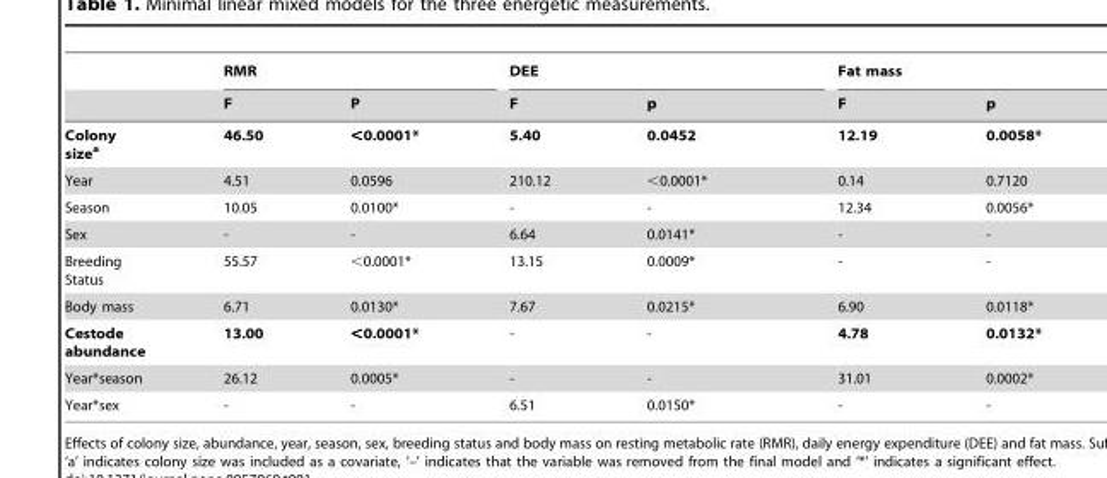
<table><thead><tr><td rowspan="2"></td><td colspan="2">RMR</td><td colspan="2">DEE</td><td colspan="2">Fat mass</td></tr><tr><td>F</td><td>P</td><td>F</td><td>p</td><td>F</td><td>p</td></tr></thead><tbody><tr><td>Colony size<sup>a</sup></td><td>46.50</td><td>&lt;0.0001*</td><td>5.40</td><td>0.0452</td><td>12.19</td><td>0.0058*</td></tr><tr><td>Year</td><td>4.51</td><td>0.0596</td><td>210.12</td><td>&lt;0.0001*</td><td>0.14</td><td>0.7120</td></tr><tr><td>Season</td><td>10.05</td><td>0.0100*</td><td>-</td><td>-</td><td>12.34</td><td>0.0056*</td></tr><tr><td>Sex</td><td>-</td><td>-</td><td>6.64</td><td>0.0141*</td><td>-</td><td>-</td></tr><tr><td>Breeding Status</td><td>55.57</td><td>&lt;0.0001*</td><td>13.15</td><td>0.0009*</td><td>-</td><td>-</td></tr><tr><td>Body mass</td><td>6.71</td><td>0.0130*</td><td>7.67</td><td>0.0215*</td><td>6.90</td><td>0.0118*</td></tr><tr><td>Cestode abundance</td><td>13.00</td><td>&lt;0.0001*</td><td>-</td><td>-</td><td>4.78</td><td>0.0132*</td></tr><tr><td>Year*season</td><td>26.12</td><td>0.0005*</td><td>-</td><td>-</td><td>31.01</td><td>0.0002*</td></tr><tr><td>Year*sex</td><td>-</td><td>-</td><td>6.51</td><td>0.0150*</td><td>-</td><td>-</td></tr></tbody></table>